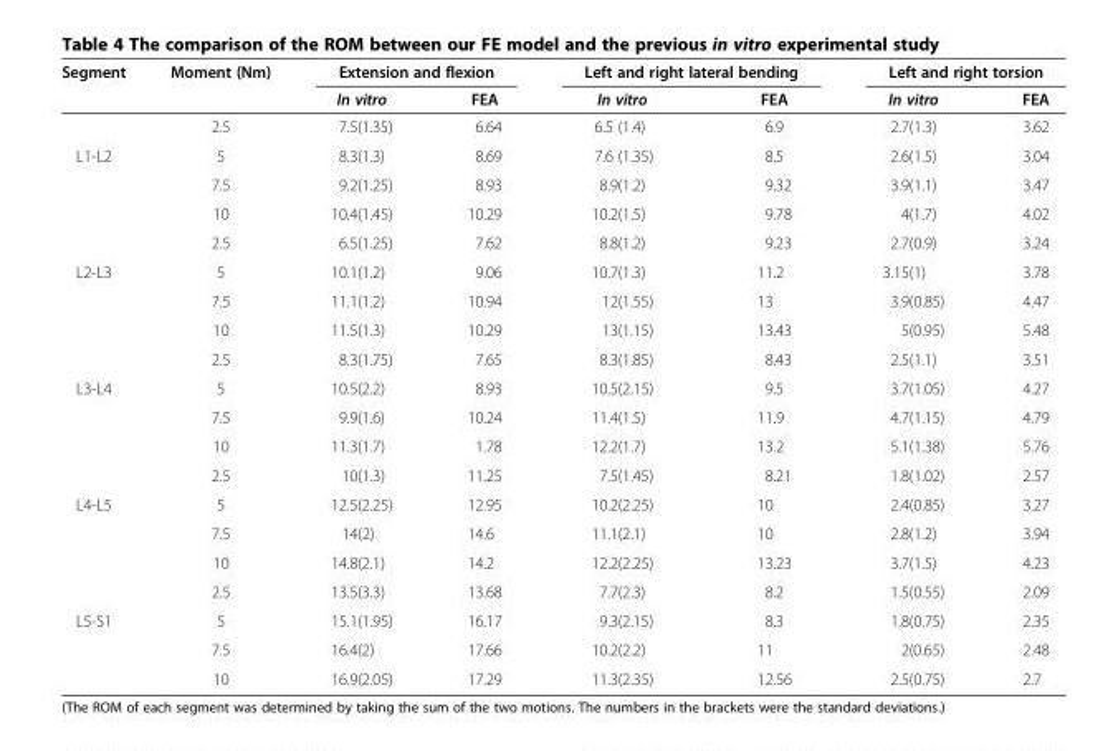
<table><thead><tr><td rowspan="2">Segment</td><td rowspan="2">Moment (Nm)</td><td colspan="2">Extension and flexion</td><td colspan="2">Left and right lateral bending</td><td colspan="2">Left and right torsion</td></tr><tr><td>In vitro</td><td>FEA</td><td>In vitro</td><td>FEA</td><td>In vitro</td><td>FEA</td></tr></thead><tbody><tr><td></td><td>2.5</td><td>7.5(1.35)</td><td>6.64</td><td>6.5 (1.4)</td><td>6.9</td><td>2.7(1.3)</td><td>3.62</td></tr><tr><td rowspan="4">L1-L2</td><td>5</td><td>8.3(1.3)</td><td>8.69</td><td>7.6 (1.35)</td><td>8.5</td><td>2.6(1.5)</td><td>3.04</td></tr><tr><td>7.5</td><td>9.2(1.25)</td><td>8.93</td><td>8.9(1.2)</td><td>9.32</td><td>3.9(1.1)</td><td>3.47</td></tr><tr><td>10</td><td>10.4(1.45)</td><td>10.29</td><td>10.2(1.5)</td><td>9.78</td><td>4(1.7)</td><td>4.02</td></tr><tr><td>2.5</td><td>6.5(1.25)</td><td>7.62</td><td>8.8(1.2)</td><td>9.23</td><td>2.7(0.9)</td><td>3.24</td></tr><tr><td rowspan="4">L2-L3</td><td>5</td><td>10.1(1.2)</td><td>9.06</td><td>10.7(1.3)</td><td>11.2</td><td>3.15(1)</td><td>3.78</td></tr><tr><td>7.5</td><td>11.1(1.2)</td><td>10.94</td><td>12(1.55)</td><td>13</td><td>3.9(0.85)</td><td>4.47</td></tr><tr><td>10</td><td>11.5(1.3)</td><td>10.29</td><td>13(1.15)</td><td>13.43</td><td>5(0.95)</td><td>5.48</td></tr><tr><td>2.5</td><td>8.3(1.75)</td><td>7.65</td><td>8.3(1.85)</td><td>8.43</td><td>2.5(1.1)</td><td>3.51</td></tr><tr><td rowspan="4">L3-L4</td><td>5</td><td>10.5(2.2)</td><td>8.93</td><td>10.5(2.15)</td><td>9.5</td><td>3.7(1.05)</td><td>4.27</td></tr><tr><td>7.5</td><td>9.9(1.6)</td><td>10.24</td><td>11.4(1.5)</td><td>11.9</td><td>4.7(1.15)</td><td>4.79</td></tr><tr><td>10</td><td>11.3(1.7)</td><td>1.78</td><td>12.2(1.7)</td><td>13.2</td><td>5.1(1.38)</td><td>5.76</td></tr><tr><td>2.5</td><td>10(1.3)</td><td>11.25</td><td>7.5(1.45)</td><td>8.21</td><td>1.8(1.02)</td><td>2.57</td></tr><tr><td rowspan="4">L4-L5</td><td>5</td><td>12.5(2.25)</td><td>12.95</td><td>10.2(2.25)</td><td>10</td><td>2.4(0.85)</td><td>3.27</td></tr><tr><td>7.5</td><td>14(2)</td><td>14.6</td><td>11.1(2.1)</td><td>10</td><td>2.8(1.2)</td><td>3.94</td></tr><tr><td>10</td><td>14.8(2.1)</td><td>14.2</td><td>12.2(2.25)</td><td>13.23</td><td>3.7(1.5)</td><td>4.23</td></tr><tr><td>2.5</td><td>13.5(3.3)</td><td>13.68</td><td>7.7(2.3)</td><td>8.2</td><td>1.5(0.55)</td><td>2.09</td></tr><tr><td rowspan="3">L5-S1</td><td>5</td><td>15.1(1.95)</td><td>16.17</td><td>9.3(2.15)</td><td>8.3</td><td>1.8(0.75)</td><td>2.35</td></tr><tr><td>7.5</td><td>16.4(2)</td><td>17.66</td><td>10.2(2.2)</td><td>11</td><td>2(0.65)</td><td>2.48</td></tr><tr><td>10</td><td>16.9(2.05)</td><td>17.29</td><td>11.3(2.35)</td><td>12.56</td><td>2.5(0.75)</td><td>2.7</td></tr></tbody></table>